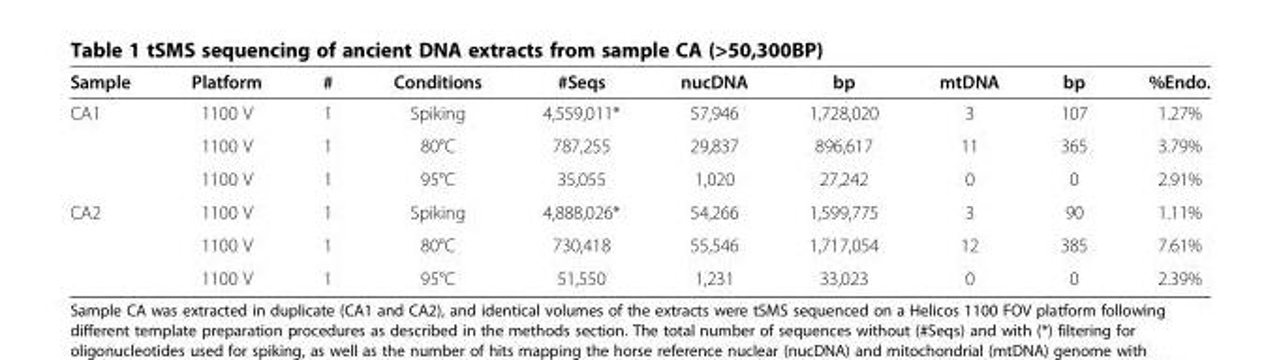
<table><thead><tr><td>Sample</td><td>Platform</td><td>#</td><td>Conditions</td><td>#Seqs</td><td>nucDNA</td><td>bp</td><td>mtDNA</td><td>bp</td><td>%Endo.</td></tr></thead><tbody><tr><td rowspan="3">CA1</td><td>1100 V</td><td>1</td><td>Spiking</td><td>4,559,011*</td><td>57,946</td><td>1,728,020</td><td>3</td><td>107</td><td>1.27%</td></tr><tr><td>1100 V</td><td>1</td><td>80°C</td><td>787,255</td><td>29,837</td><td>896,617</td><td>11</td><td>365</td><td>3.79%</td></tr><tr><td>1100 V</td><td>1</td><td>95°C</td><td>35,055</td><td>1,020</td><td>27,242</td><td>0</td><td>0</td><td>2.91%</td></tr><tr><td rowspan="3">CA2</td><td>1100 V</td><td>1</td><td>Spiking</td><td>4,888,026*</td><td>54,266</td><td>1,599,775</td><td>3</td><td>90</td><td>1.11%</td></tr><tr><td>1100 V</td><td>1</td><td>80°C</td><td>730,418</td><td>55,546</td><td>1,717,054</td><td>12</td><td>385</td><td>7.61%</td></tr><tr><td>1100 V</td><td>1</td><td>95°C</td><td>51,550</td><td>1,231</td><td>33,023</td><td>0</td><td>0</td><td>2.39%</td></tr></tbody></table>